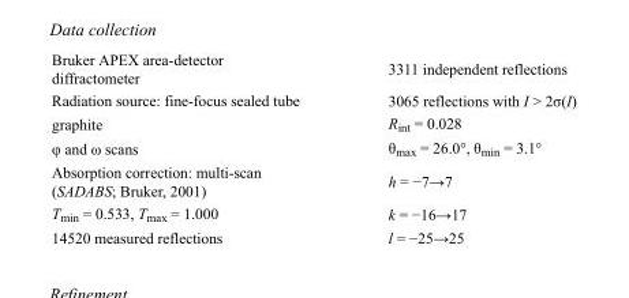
<table><tbody><tr><td>Bruker APEX area-detector diffractometer</td><td>3311 independent reflections</td></tr><tr><td>Radiation source: fine-focus sealed tube</td><td>3065 reflections with I &gt; 2σ(I)</td></tr><tr><td>graphite</td><td>R<sub>int</sub> = 0.028</td></tr><tr><td>φ and ω scans</td><td>θ<sub>max</sub> = 26.0°, θ<sub>min</sub> = 3.1°</td></tr><tr><td>Absorption correction: multi-scan (SADABS; Bruker, 2001)</td><td>h = −7→7</td></tr><tr><td>T<sub>min</sub> = 0.533, T<sub>max</sub> = 1.000</td><td>k = −16→17</td></tr><tr><td>14520 measured reflections</td><td>l = −25→25</td></tr></tbody></table>